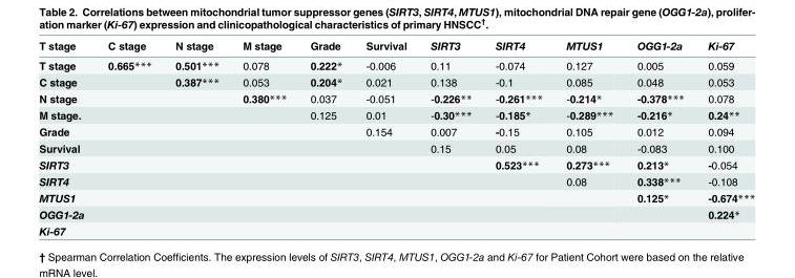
<table><thead><tr><td>T stage</td><td>C stage</td><td>N stage</td><td>M stage</td><td>Grade</td><td>Survival</td><td>SIRT3</td><td>SIRT4</td><td>MTUS1</td><td>OGG1-2a</td><td>Ki-67</td></tr></thead><tbody><tr><td>T stage</td><td>0.665***</td><td>0.501***</td><td>0.078</td><td>0.222*</td><td>-0.006</td><td>0.11</td><td>-0.074</td><td>0.127</td><td>0.005</td><td>0.059</td></tr><tr><td>C stage</td><td></td><td>0.387***</td><td>0.053</td><td>0.204*</td><td>0.021</td><td>0.138</td><td>-0.1</td><td>0.085</td><td>0.048</td><td>0.053</td></tr><tr><td>N stage</td><td></td><td></td><td>0.380***</td><td>0.037</td><td>-0.051</td><td>-0.226**</td><td>-0.261***</td><td>-0.214*</td><td>-0.378***</td><td>0.078</td></tr><tr><td>M stage.</td><td></td><td></td><td></td><td>0.125</td><td>0.01</td><td>-0.30***</td><td>-0.185*</td><td>-0.289***</td><td>-0.216*</td><td>0.24**</td></tr><tr><td>Grade</td><td></td><td></td><td></td><td></td><td>0.154</td><td>0.007</td><td>-0.15</td><td>0.105</td><td>0.012</td><td>0.094</td></tr><tr><td>Survival</td><td></td><td></td><td></td><td></td><td></td><td>0.15</td><td>0.05</td><td>0.08</td><td>-0.083</td><td>0.100</td></tr><tr><td>SIRT3</td><td></td><td></td><td></td><td></td><td></td><td></td><td>0.523***</td><td>0.273***</td><td>0.213*</td><td>-0.054</td></tr><tr><td>SIRT4</td><td></td><td></td><td></td><td></td><td></td><td></td><td></td><td>0.08</td><td>0.338***</td><td>-0.108</td></tr><tr><td>MTUS1</td><td></td><td></td><td></td><td></td><td></td><td></td><td></td><td></td><td>0.125*</td><td>-0.674***</td></tr><tr><td>OGG1-2a</td><td></td><td></td><td></td><td></td><td></td><td></td><td></td><td></td><td></td><td>0.224*</td></tr><tr><td>Ki-67</td><td></td><td></td><td></td><td></td><td></td><td></td><td></td><td></td><td></td><td></td></tr></tbody></table>